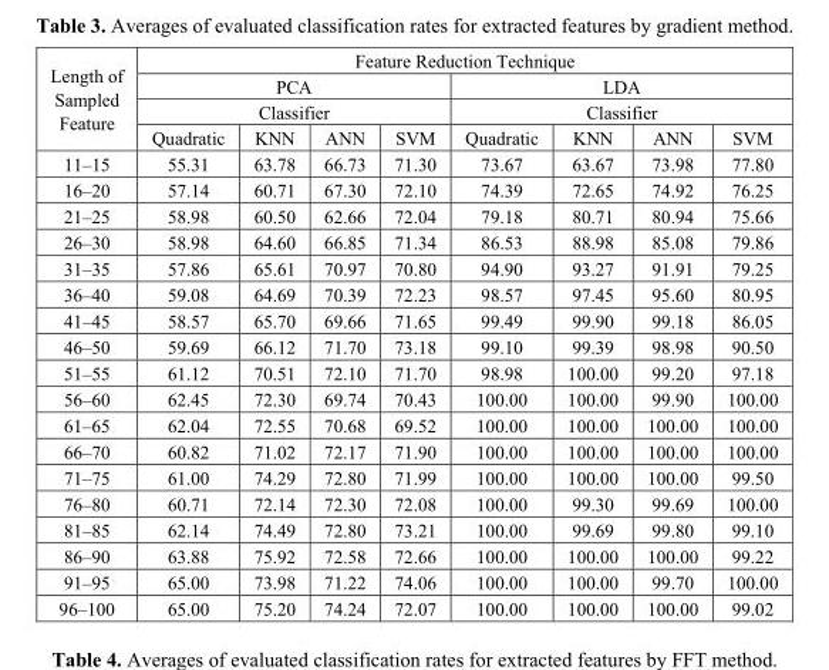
<table><thead><tr><td rowspan="4">Length of Sampled Feature</td><td colspan="8">Feature Reduction Technique</td></tr><tr><td rowspan="2" colspan="4">PCA Classifier</td><td rowspan="2" colspan="4">LDA Classifier</td></tr><tr></tr><tr><td>Quadratic</td><td>KNN</td><td>ANN</td><td>SVM</td><td>Quadratic</td><td>KNN</td><td>ANN</td><td>SVM</td></tr></thead><tbody><tr><td>11–15</td><td>55.31</td><td>63.78</td><td>66.73</td><td>71.30</td><td>73.67</td><td>63.67</td><td>73.98</td><td>77.80</td></tr><tr><td>16–20</td><td>57.14</td><td>60.71</td><td>67.30</td><td>72.10</td><td>74.39</td><td>72.65</td><td>74.92</td><td>76.25</td></tr><tr><td>21–25</td><td>58.98</td><td>60.50</td><td>62.66</td><td>72.04</td><td>79.18</td><td>80.71</td><td>80.94</td><td>75.66</td></tr><tr><td>26–30</td><td>58.98</td><td>64.60</td><td>66.85</td><td>71.34</td><td>86.53</td><td>88.98</td><td>85.08</td><td>79.86</td></tr><tr><td>31–35</td><td>57.86</td><td>65.61</td><td>70.97</td><td>70.80</td><td>94.90</td><td>93.27</td><td>91.91</td><td>79.25</td></tr><tr><td>36–40</td><td>59.08</td><td>64.69</td><td>70.39</td><td>72.23</td><td>98.57</td><td>97.45</td><td>95.60</td><td>80.95</td></tr><tr><td>41–45</td><td>58.57</td><td>65.70</td><td>69.66</td><td>71.65</td><td>99.49</td><td>99.90</td><td>99.18</td><td>86.05</td></tr><tr><td>46–50</td><td>59.69</td><td>66.12</td><td>71.70</td><td>73.18</td><td>99.10</td><td>99.39</td><td>98.98</td><td>90.50</td></tr><tr><td>51–55</td><td>61.12</td><td>70.51</td><td>72.10</td><td>71.70</td><td>98.98</td><td>100.00</td><td>99.20</td><td>97.18</td></tr><tr><td>56–60</td><td>62.45</td><td>72.30</td><td>69.74</td><td>70.43</td><td>100.00</td><td>100.00</td><td>99.90</td><td>100.00</td></tr><tr><td>61–65</td><td>62.04</td><td>72.55</td><td>70.68</td><td>69.52</td><td>100.00</td><td>100.00</td><td>100.00</td><td>100.00</td></tr><tr><td>66–70</td><td>60.82</td><td>71.02</td><td>72.17</td><td>71.90</td><td>100.00</td><td>100.00</td><td>100.00</td><td>100.00</td></tr><tr><td>71–75</td><td>61.00</td><td>74.29</td><td>72.80</td><td>71.99</td><td>100.00</td><td>100.00</td><td>100.00</td><td>99.50</td></tr><tr><td>76–80</td><td>60.71</td><td>72.14</td><td>72.30</td><td>72.08</td><td>100.00</td><td>99.30</td><td>99.69</td><td>100.00</td></tr><tr><td>81–85</td><td>62.14</td><td>74.49</td><td>72.80</td><td>73.21</td><td>100.00</td><td>99.69</td><td>99.80</td><td>99.10</td></tr><tr><td>86–90</td><td>63.88</td><td>75.92</td><td>72.58</td><td>72.66</td><td>100.00</td><td>100.00</td><td>100.00</td><td>99.22</td></tr><tr><td>91–95</td><td>65.00</td><td>73.98</td><td>71.22</td><td>74.06</td><td>100.00</td><td>100.00</td><td>99.70</td><td>100.00</td></tr><tr><td>96–100</td><td>65.00</td><td>75.20</td><td>74.24</td><td>72.07</td><td>100.00</td><td>100.00</td><td>100.00</td><td>99.02</td></tr></tbody></table>